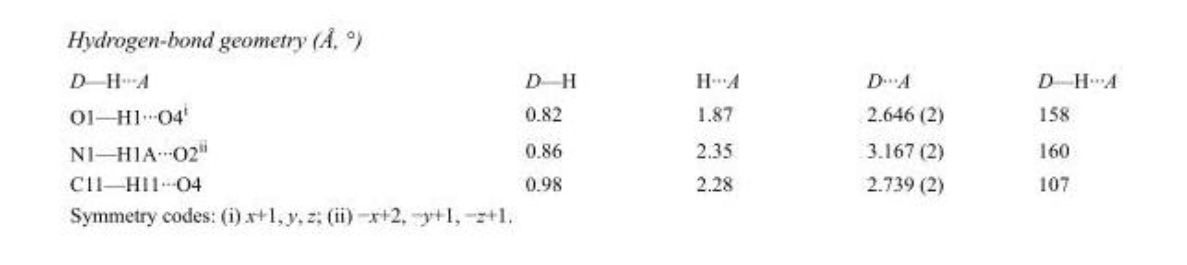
<table><tbody><tr><td>D—H···A</td><td>D—H</td><td>H···A</td><td>D···A</td><td>D—H···A</td></tr><tr><td>O1—H1···O4<sup>i</sup></td><td>0.82</td><td>1.87</td><td>2.646 (2)</td><td>158</td></tr><tr><td>N1—H1A···O2<sup>ii</sup></td><td>0.86</td><td>2.35</td><td>3.167 (2)</td><td>160</td></tr><tr><td>C11—H11···O4</td><td>0.98</td><td>2.28</td><td>2.739 (2)</td><td>107</td></tr></tbody></table>